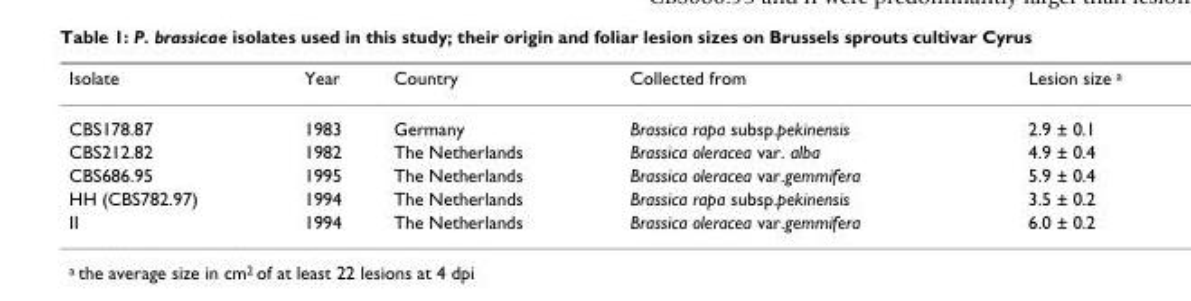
<table><thead><tr><td>Isolate</td><td>Year</td><td>Country</td><td>Collected from</td><td>Lesion size <sup>a</sup></td></tr></thead><tbody><tr><td>CBS178.87</td><td>1983</td><td>Germany</td><td>Brassica rapa subsp.pekinensis</td><td>2.9 ± 0.1</td></tr><tr><td>CBS212.82</td><td>1982</td><td>The Netherlands</td><td>Brassica oleracea var. alba</td><td>4.9 ± 0.4</td></tr><tr><td>CBS686.95</td><td>1995</td><td>The Netherlands</td><td>Brassica oleracea var.gemmifera</td><td>5.9 ± 0.4</td></tr><tr><td>HH (CBS782.97)</td><td>1994</td><td>The Netherlands</td><td>Brassica rapa subsp.pekinensis</td><td>3.5 ± 0.2</td></tr><tr><td>II</td><td>1994</td><td>The Netherlands</td><td>Brassica oleracea var.gemmifera</td><td>6.0 ± 0.2</td></tr></tbody></table>